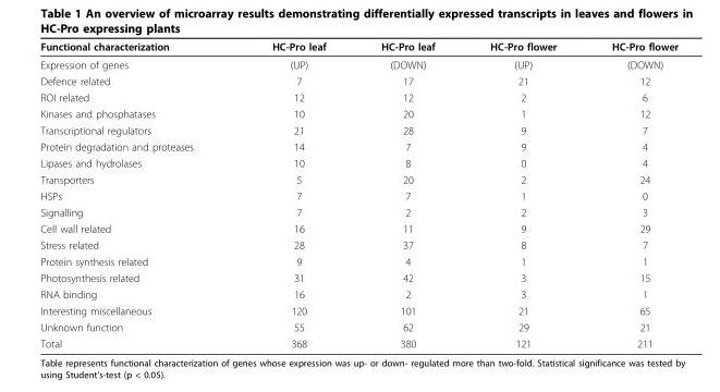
<table><thead><tr><td>Functional characterization</td><td>HC-Pro leaf</td><td>HC-Pro leaf</td><td>HC-Pro flower</td><td>HC-Pro flower</td></tr></thead><tbody><tr><td>Expression of genes</td><td>(UP)</td><td>(DOWN)</td><td>(UP)</td><td>(DOWN)</td></tr><tr><td>Defence related</td><td>7</td><td>17</td><td>21</td><td>12</td></tr><tr><td>ROI related</td><td>12</td><td>12</td><td>2</td><td>6</td></tr><tr><td>Kinases and phosphatases</td><td>10</td><td>20</td><td>1</td><td>12</td></tr><tr><td>Transcriptional regulators</td><td>21</td><td>28</td><td>9</td><td>7</td></tr><tr><td>Protein degradation and proteases</td><td>14</td><td>7</td><td>9</td><td>4</td></tr><tr><td>Lipases and hydrolases</td><td>10</td><td>8</td><td>0</td><td>4</td></tr><tr><td>Transporters</td><td>5</td><td>20</td><td>2</td><td>24</td></tr><tr><td>HSPs</td><td>7</td><td>7</td><td>1</td><td>0</td></tr><tr><td>Signalling</td><td>7</td><td>2</td><td>2</td><td>3</td></tr><tr><td>Cell wall related</td><td>16</td><td>11</td><td>9</td><td>29</td></tr><tr><td>Stress related</td><td>28</td><td>37</td><td>8</td><td>7</td></tr><tr><td>Protein synthesis related</td><td>9</td><td>4</td><td>1</td><td>1</td></tr><tr><td>Photosynthesis related</td><td>31</td><td>42</td><td>3</td><td>15</td></tr><tr><td>RNA binding</td><td>16</td><td>2</td><td>3</td><td>1</td></tr><tr><td>Interesting miscellaneous</td><td>120</td><td>101</td><td>21</td><td>65</td></tr><tr><td>Unknown function</td><td>55</td><td>62</td><td>29</td><td>21</td></tr><tr><td>Total</td><td>368</td><td>380</td><td>121</td><td>211</td></tr></tbody></table>